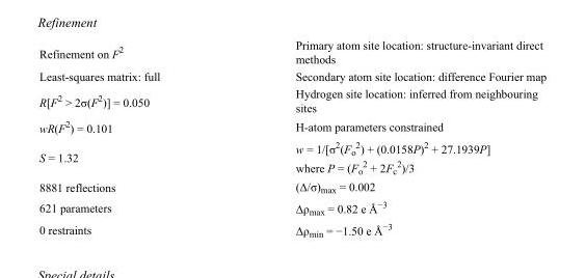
<table><tbody><tr><td>Refinement on F<sup>2</sup></td><td>Primary atom site location: structure-invariant direct methods</td></tr><tr><td>Least-squares matrix: full</td><td>Secondary atom site location: difference Fourier map</td></tr><tr><td>R[F<sup>2</sup> &gt; 2σ(F<sup>2</sup>)] = 0.050</td><td>Hydrogen site location: inferred from neighbouring sites</td></tr><tr><td>wR(F<sup>2</sup>) = 0.101</td><td>H-atom parameters constrained</td></tr><tr><td>S = 1.32</td><td>w = 1/[σ<sup>2</sup>(F<sub>o</sub> <sup>2</sup>) + (0.0158P)<sup>2</sup> + 27.1939P] where P = (F<sub>o</sub> <sup>2</sup> + 2F<sub>c</sub> <sup>2</sup>)/3</td></tr><tr><td>8881 reflections</td><td>(Δ/σ)<sub>max</sub> = 0.002</td></tr><tr><td>621 parameters</td><td>Δρ<sub>max</sub> = 0.82 e Å<sup>−3</sup></td></tr><tr><td>0 restraints</td><td>Δρ<sub>min</sub> = −1.50 e Å<sup>−3</sup></td></tr></tbody></table>